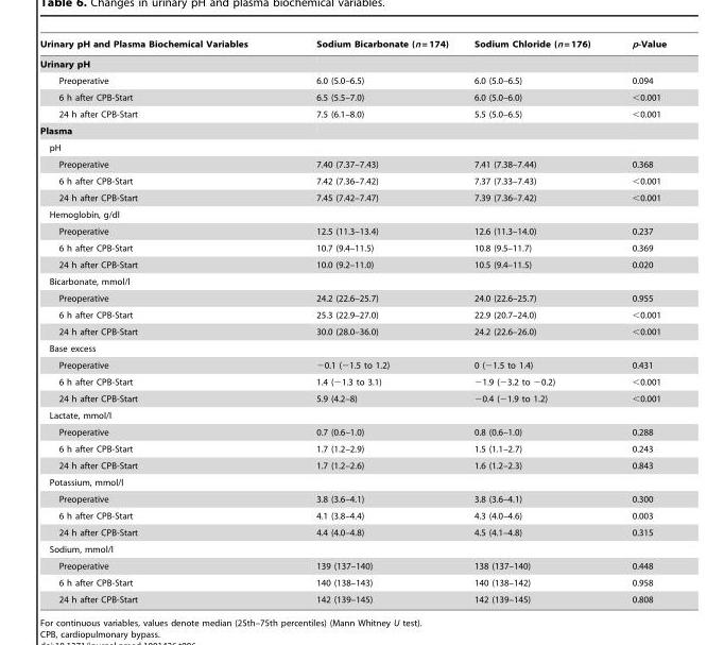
<table><thead><tr><td>Urinary pH and Plasma Biochemical Variables</td><td>Sodium Bicarbonate (n = 174)</td><td>Sodium Chloride (n = 176)</td><td>p-Value</td></tr></thead><tbody><tr><td colspan="4">Urinary pH</td></tr><tr><td>Preoperative</td><td>6.0 (5.0–6.5)</td><td>6.0 (5.0–6.5)</td><td>0.094</td></tr><tr><td>6 h after CPB-Start</td><td>6.5 (5.5–7.0)</td><td>6.0 (5.0–6.0)</td><td>&lt;0.001</td></tr><tr><td>24 h after CPB-Start</td><td>7.5 (6.1–8.0)</td><td>5.5 (5.0–6.5)</td><td>&lt;0.001</td></tr><tr><td colspan="4">Plasma</td></tr><tr><td colspan="4">pH</td></tr><tr><td>Preoperative</td><td>7.40 (7.37–7.43)</td><td>7.41 (7.38–7.44)</td><td>0.368</td></tr><tr><td>6 h after CPB-Start</td><td>7.42 (7.36–7.42)</td><td>7.37 (7.33–7.43)</td><td>&lt;0.001</td></tr><tr><td>24 h after CPB-Start</td><td>7.45 (7.42–7.47)</td><td>7.39 (7.36–7.42)</td><td>&lt;0.001</td></tr><tr><td colspan="4">Hemoglobin, g/dl</td></tr><tr><td>Preoperative</td><td>12.5 (11.3–13.4)</td><td>12.6 (11.3–14.0)</td><td>0.237</td></tr><tr><td>6 h after CPB-Start</td><td>10.7 (9.4–11.5)</td><td>10.8 (9.5–11.7)</td><td>0.369</td></tr><tr><td>24 h after CPB-Start</td><td>10.0 (9.2–11.0)</td><td>10.5 (9.4–11.5)</td><td>0.020</td></tr><tr><td colspan="4">Bicarbonate, mmol/l</td></tr><tr><td>Preoperative</td><td>24.2 (22.6–25.7)</td><td>24.0 (22.6–25.7)</td><td>0.955</td></tr><tr><td>6 h after CPB-Start</td><td>25.3 (22.9–27.0)</td><td>22.9 (20.7–24.0)</td><td>&lt;0.001</td></tr><tr><td>24 h after CPB-Start</td><td>30.0 (28.0–36.0)</td><td>24.2 (22.6–26.0)</td><td>&lt;0.001</td></tr><tr><td colspan="4">Base excess</td></tr><tr><td>Preoperative</td><td>−0.1 (−1.5 to 1.2)</td><td>0 (−1.5 to 1.4)</td><td>0.431</td></tr><tr><td>6 h after CPB-Start</td><td>1.4 (−1.3 to 3.1)</td><td>−1.9 (−3.2 to −0.2)</td><td>&lt;0.001</td></tr><tr><td>24 h after CPB-Start</td><td>5.9 (4.2–8)</td><td>−0.4 (−1.9 to 1.2)</td><td>&lt;0.001</td></tr><tr><td colspan="4">Lactate, mmol/l</td></tr><tr><td>Preoperative</td><td>0.7 (0.6–1.0)</td><td>0.8 (0.6–1.0)</td><td>0.288</td></tr><tr><td>6 h after CPB-Start</td><td>1.7 (1.2–2.9)</td><td>1.5 (1.1–2.7)</td><td>0.243</td></tr><tr><td>24 h after CPB-Start</td><td>1.7 (1.2–2.6)</td><td>1.6 (1.2–2.3)</td><td>0.843</td></tr><tr><td colspan="4">Potassium, mmol/l</td></tr><tr><td>Preoperative</td><td>3.8 (3.6–4.1)</td><td>3.8 (3.6–4.1)</td><td>0.300</td></tr><tr><td>6 h after CPB-Start</td><td>4.1 (3.8–4.4)</td><td>4.3 (4.0–4.6)</td><td>0.003</td></tr><tr><td>24 h after CPB-Start</td><td>4.4 (4.0–4.8)</td><td>4.5 (4.1–4.8)</td><td>0.315</td></tr><tr><td colspan="4">Sodium, mmol/l</td></tr><tr><td>Preoperative</td><td>139 (137–140)</td><td>138 (137–140)</td><td>0.448</td></tr><tr><td>6 h after CPB-Start</td><td>140 (138–143)</td><td>140 (138–142)</td><td>0.958</td></tr><tr><td>24 h after CPB-Start</td><td>142 (139–145)</td><td>142 (139–145)</td><td>0.808</td></tr></tbody></table>